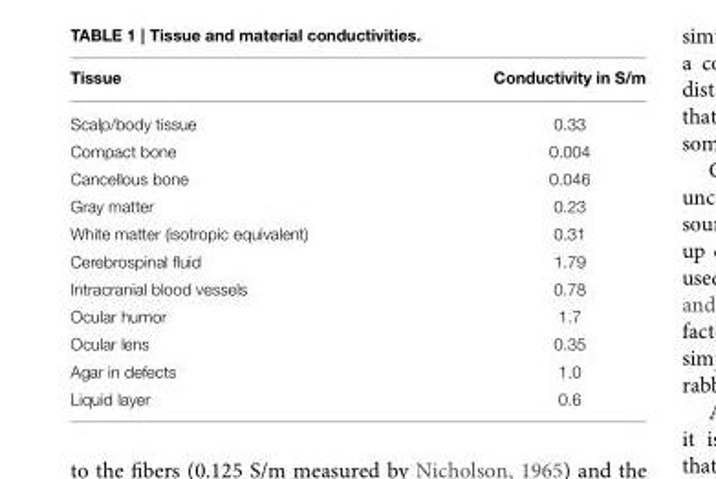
<table><thead><tr><td>Tissue</td><td>Conductivity in S/m</td></tr></thead><tbody><tr><td>Scalp/body tissue</td><td>0.33</td></tr><tr><td>Compact bone</td><td>0.004</td></tr><tr><td>Cancellous bone</td><td>0.046</td></tr><tr><td>Gray matter</td><td>0.23</td></tr><tr><td>White matter (isotropic equivalent)</td><td>0.31</td></tr><tr><td>Cerebrospinal fluid</td><td>1.79</td></tr><tr><td>Intracranial blood vessels</td><td>0.78</td></tr><tr><td>Ocular humor</td><td>1.7</td></tr><tr><td>Ocular lens</td><td>0.35</td></tr><tr><td>Agar in defects</td><td>1.0</td></tr><tr><td>Liquid layer</td><td>0.6</td></tr></tbody></table>